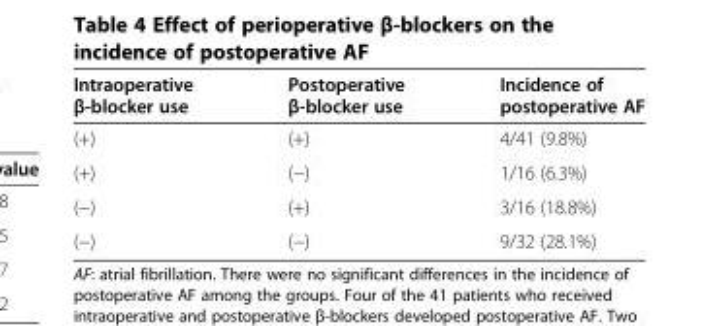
<table><thead><tr><td>Intraoperative β-blocker use</td><td>Postoperative β-blocker use</td><td>Incidence of postoperative AF</td></tr></thead><tbody><tr><td>(+)</td><td>(+)</td><td>4/41 (9.8%)</td></tr><tr><td>(+)</td><td>(−)</td><td>1/16 (6.3%)</td></tr><tr><td>(−)</td><td>(+)</td><td>3/16 (18.8%)</td></tr><tr><td>(−)</td><td>(−)</td><td>9/32 (28.1%)</td></tr></tbody></table>